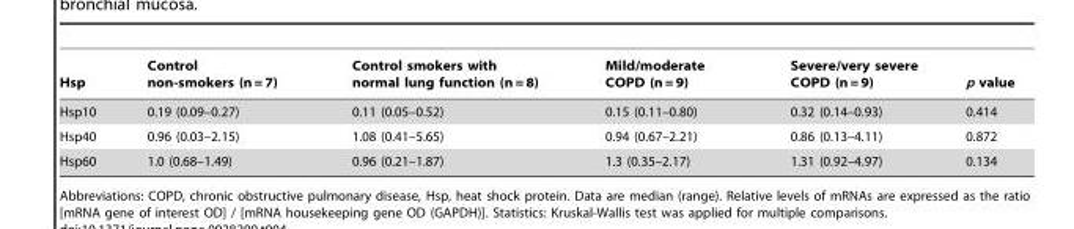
<table><thead><tr><td>Hsp</td><td>Control non-smokers (n = 7)</td><td>Control smokers with normal lung function (n = 8)</td><td>Mild/moderate COPD (n = 9)</td><td>Severe/very severe COPD (n = 9)</td><td>p value</td></tr></thead><tbody><tr><td>Hsp10</td><td>0.19 (0.09–0.27)</td><td>0.11 (0.05–0.52)</td><td>0.15 (0.11–0.80)</td><td>0.32 (0.14–0.93)</td><td>0.414</td></tr><tr><td>Hsp40</td><td>0.96 (0.03–2.15)</td><td>1.08 (0.41–5.65)</td><td>0.94 (0.67–2.21)</td><td>0.86 (0.13–4.11)</td><td>0.872</td></tr><tr><td>Hsp60</td><td>1.0 (0.68–1.49)</td><td>0.96 (0.21–1.87)</td><td>1.3 (0.35–2.17)</td><td>1.31 (0.92–4.97)</td><td>0.134</td></tr></tbody></table>